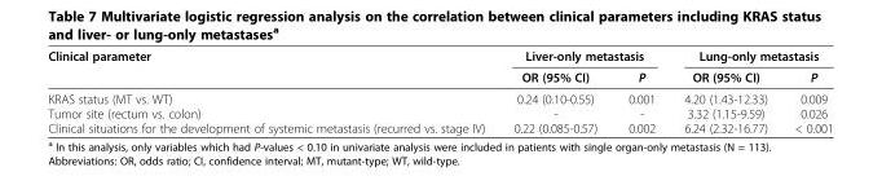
<table><thead><tr><td rowspan="2">Clinical parameter</td><td colspan="2">Liver-only metastasis</td><td colspan="2">Lung-only metastasis</td></tr><tr><td>OR (95% CI)</td><td>P</td><td>OR (95% CI)</td><td>P</td></tr></thead><tbody><tr><td>KRAS status (MT vs. WT)</td><td>0.24 (0.10-0.55)</td><td>0.001</td><td>4.20 (1.43-12.33)</td><td>0.009</td></tr><tr><td>Tumor site (rectum vs. colon)</td><td>-</td><td>-</td><td>3.32 (1.15-9.59)</td><td>0.026</td></tr><tr><td>Clinical situations for the development of systemic metastasis (recurred vs. stage IV)</td><td>0.22 (0.085-0.57)</td><td>0.002</td><td>6.24 (2.32-16.77)</td><td>&lt; 0.001</td></tr></tbody></table>